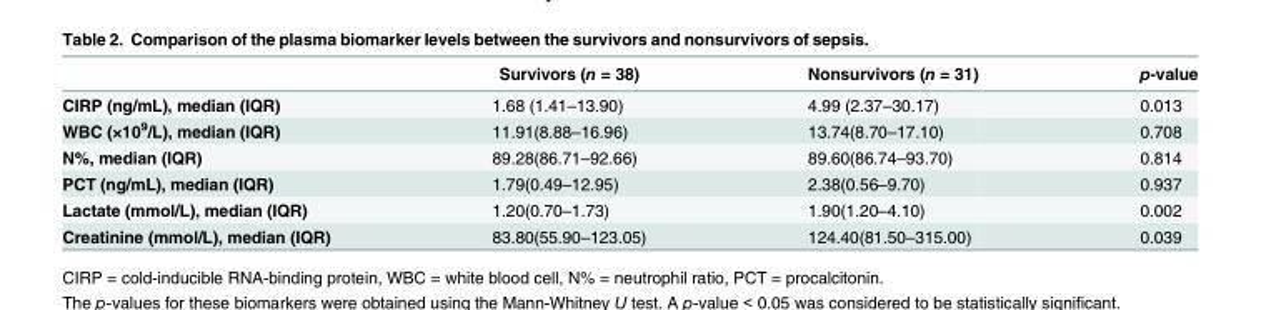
<table><thead><tr><td></td><td>Survivors (n = 38)</td><td>Nonsurvivors (n = 31)</td><td>p-value</td></tr></thead><tbody><tr><td>CIRP (ng/mL), median (IQR)</td><td>1.68 (1.41–13.90)</td><td>4.99 (2.37–30.17)</td><td>0.013</td></tr><tr><td>WBC (×10<sup>9</sup>/L), median (IQR)</td><td>11.91(8.88–16.96)</td><td>13.74(8.70–17.10)</td><td>0.708</td></tr><tr><td>N%, median (IQR)</td><td>89.28(86.71–92.66)</td><td>89.60(86.74–93.70)</td><td>0.814</td></tr><tr><td>PCT (ng/mL), median (IQR)</td><td>1.79(0.49–12.95)</td><td>2.38(0.56–9.70)</td><td>0.937</td></tr><tr><td>Lactate (mmol/L), median (IQR)</td><td>1.20(0.70–1.73)</td><td>1.90(1.20–4.10)</td><td>0.002</td></tr><tr><td>Creatinine (mmol/L), median (IQR)</td><td>83.80(55.90–123.05)</td><td>124.40(81.50–315.00)</td><td>0.039</td></tr></tbody></table>